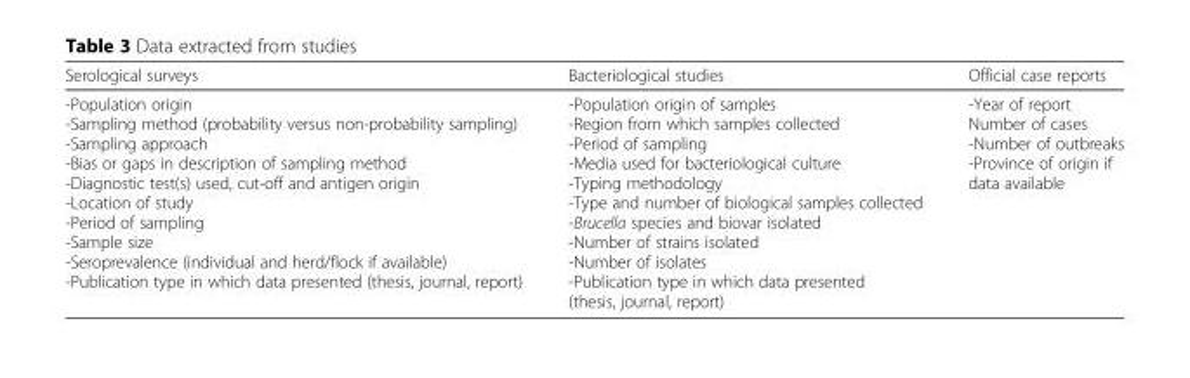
<table><thead><tr><td>Serological surveys</td><td>Bacteriological studies</td><td>Official case reports</td></tr></thead><tbody><tr><td>-Population origin -Sampling method (probability versus non-probability sampling) -Sampling approach -Bias or gaps in description of sampling method -Diagnostic test(s) used, cut-off and antigen origin -Location of study -Period of sampling -Sample size -Seroprevalence (individual and herd/flock if available) -Publication type in which data presented (thesis, journal, report)</td><td>-Population origin of samples -Region from which samples collected -Period of sampling -Media used for bacteriological culture -Typing methodology -Type and number of biological samples collected -Brucella species and biovar isolated -Number of strains isolated -Number of isolates -Publication type in which data presented (thesis, journal, report)</td><td>-Year of report Number of cases -Number of outbreaks -Province of origin if data available</td></tr></tbody></table>